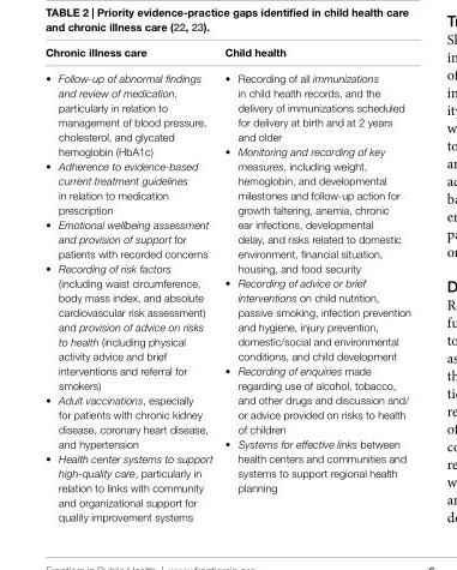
<table><thead><tr><td>chronic illness care</td><td>child health</td></tr></thead><tbody><tr><td>• Follow-up of abnormal findings and review of medication, particularly in relation to management of blood pressure, cholesterol, and glycated hemoglobin (HbA1c) • Adherence to evidence-based current treatment guidelines in relation to medication prescription • Emotional wellbeing assessment and provision of support for patients with recorded concerns • Recording of risk factors (including waist circumference, body mass index, and absolute cardiovascular risk assessment) and provision of advice on risks to health (including physical activity advice and brief interventions and referral for smokers) • Adult vaccinations, especially for patients with chronic kidney disease, coronary heart disease, and hypertension • Health center systems to support high-quality care, particularly in relation to links with community and organizational support for quality improvement systems</td><td>• Recording of all immunizations in child health records, and the delivery of immunizations scheduled for delivery at birth and at 2 years and older • Monitoring and recording of key measures, including weight, hemoglobin, and developmental milestones and follow-up action for growth faltering, anemia, chronic ear infections, developmental delay, and risks related to domestic environment, financial situation, housing, and food security • Recording of advice or brief interventions on child nutrition, passive smoking, infection prevention and hygiene, injury prevention, domestic/social and environmental conditions, and child development • Recording of enquiries made regarding use of alcohol, tobacco, and other drugs and discussion and/ or advice provided on risks to health of children • Systems for effective links between health centers and communities and systems to support regional health planning</td></tr></tbody></table>